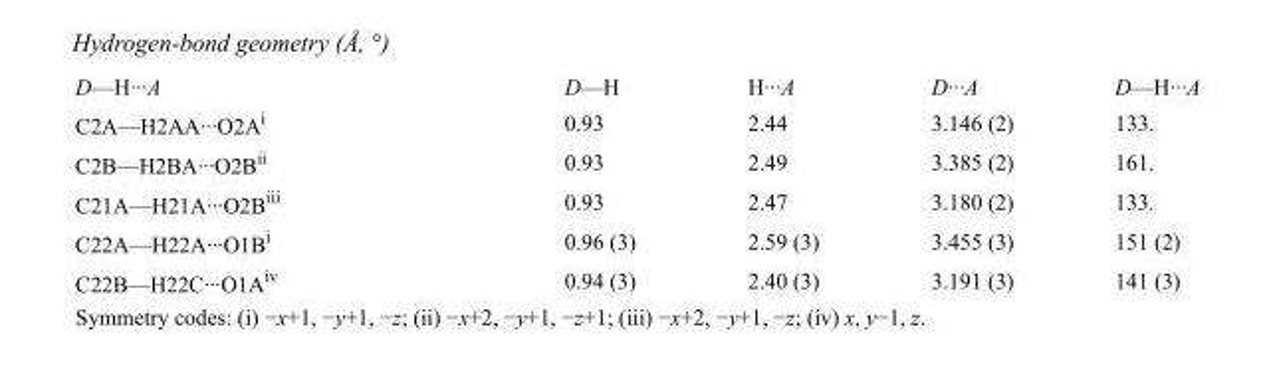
<table><tbody><tr><td>D—H···A</td><td>D—H</td><td>H···A</td><td>D···A</td><td>D—H···A</td></tr><tr><td>C2A—H2AA···O2A<sup>i</sup></td><td>0.93</td><td>2.44</td><td>3.146 (2)</td><td>133.</td></tr><tr><td>C2B—H2BA···O2B<sup>ii</sup></td><td>0.93</td><td>2.49</td><td>3.385 (2)</td><td>161.</td></tr><tr><td>C21A—H21A···O2B<sup>iii</sup></td><td>0.93</td><td>2.47</td><td>3.180 (2)</td><td>133.</td></tr><tr><td>C22A—H22A···O1B<sup>i</sup></td><td>0.96 (3)</td><td>2.59 (3)</td><td>3.455 (3)</td><td>151 (2)</td></tr><tr><td>C22B—H22C···O1A<sup>iv</sup></td><td>0.94 (3)</td><td>2.40 (3)</td><td>3.191 (3)</td><td>141 (3)</td></tr></tbody></table>